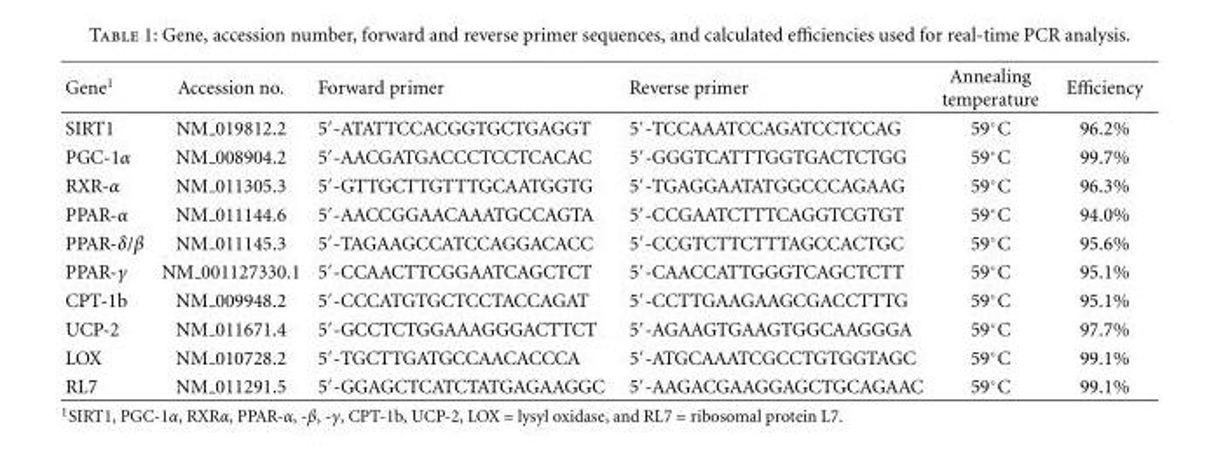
<table><thead><tr><td>Gene<sup>1</sup></td><td>Accession no.</td><td>Forward primer</td><td>Reverse primer</td><td>Annealing temperature</td><td>Efficiency</td></tr></thead><tbody><tr><td>SIRT1</td><td>NM 019812.2</td><td>5′-ATATTCCACGGTGCTGAGGT</td><td>5′-TCCAAATCCAGATCCTCCAG</td><td>59◦C</td><td>96.2%</td></tr><tr><td>PGC-1α</td><td>NM 008904.2</td><td>5′-AACGATGACCCTCCTCACAC</td><td>5′-GGGTCATTTGGTGACTCTGG</td><td>59◦C</td><td>99.7%</td></tr><tr><td>RXR-α</td><td>NM 011305.3</td><td>5′-GTTGCTTGTTTGCAATGGTG</td><td>5′-TGAGGAATATGGCCCAGAAG</td><td>59◦C</td><td>96.3%</td></tr><tr><td>PPAR-α</td><td>NM 011144.6</td><td>5′-AACCGGAACAAATGCCAGTA</td><td>5′-CCGAATCTTTCAGGTCGTGT</td><td>59◦C</td><td>94.0%</td></tr><tr><td>PPAR-δ/β</td><td>NM 011145.3</td><td>5′-TAGAAGCCATCCAGGACACC</td><td>5′-CCGTCTTCTTTAGCCACTGC</td><td>59◦C</td><td>95.6%</td></tr><tr><td>PPAR-γ</td><td>NM 001127330.1</td><td>5′-CCAACTTCGGAATCAGCTCT</td><td>5′-CAACCATTGGGTCAGCTCTT</td><td>59◦C</td><td>95.1%</td></tr><tr><td>CPT-1b</td><td>NM 009948.2</td><td>5′-CCCATGTGCTCCTACCAGAT</td><td>5′-CCTTGAAGAAGCGACCTTTG</td><td>59◦C</td><td>95.1%</td></tr><tr><td>UCP-2</td><td>NM 011671.4</td><td>5′-GCCTCTGGAAAGGGACTTCT</td><td>5′-AGAAGTGAAGTGGCAAGGGA</td><td>59◦C</td><td>97.7%</td></tr><tr><td>LOX</td><td>NM 010728.2</td><td>5′-TGCTTGATGCCAACACCCA</td><td>5′-ATGCAAATCGCCTGTGGTAGC</td><td>59◦C</td><td>99.1%</td></tr><tr><td>RL7</td><td>NM 011291.5</td><td>5′-GGAGCTCATCTATGAGAAGGC</td><td>5′-AAGACGAAGGAGCTGCAGAAC</td><td>59◦C</td><td>99.1%</td></tr></tbody></table>